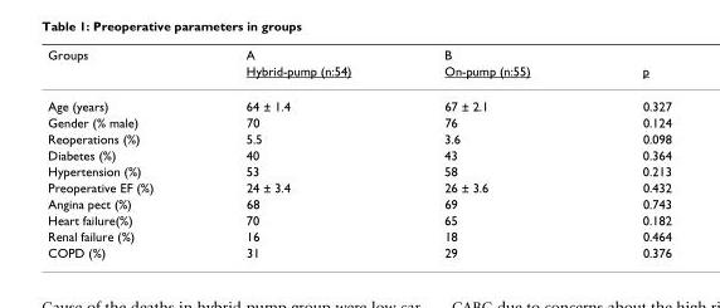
<table><thead><tr><td rowspan="2">Groups</td><td rowspan="2">A Hybrid-pump (n:54)</td><td rowspan="2">B On-pump (n:55)</td><td rowspan="2">p</td></tr><tr></tr></thead><tbody><tr><td>Age (years)</td><td>64 ± 1.4</td><td>67 ± 2.1</td><td>0.327</td></tr><tr><td>Gender (% male)</td><td>70</td><td>76</td><td>0.124</td></tr><tr><td>Reoperations (%)</td><td>5.5</td><td>3.6</td><td>0.098</td></tr><tr><td>Diabetes (%)</td><td>40</td><td>43</td><td>0.364</td></tr><tr><td>Hypertension (%)</td><td>53</td><td>58</td><td>0.213</td></tr><tr><td>Preoperative EF (%)</td><td>24 ± 3.4</td><td>26 ± 3.6</td><td>0.432</td></tr><tr><td>Angina pect (%)</td><td>68</td><td>69</td><td>0.743</td></tr><tr><td>Heart failure(%)</td><td>70</td><td>65</td><td>0.182</td></tr><tr><td>Renal failure (%)</td><td>16</td><td>18</td><td>0.464</td></tr><tr><td>COPD (%)</td><td>31</td><td>29</td><td>0.376</td></tr></tbody></table>